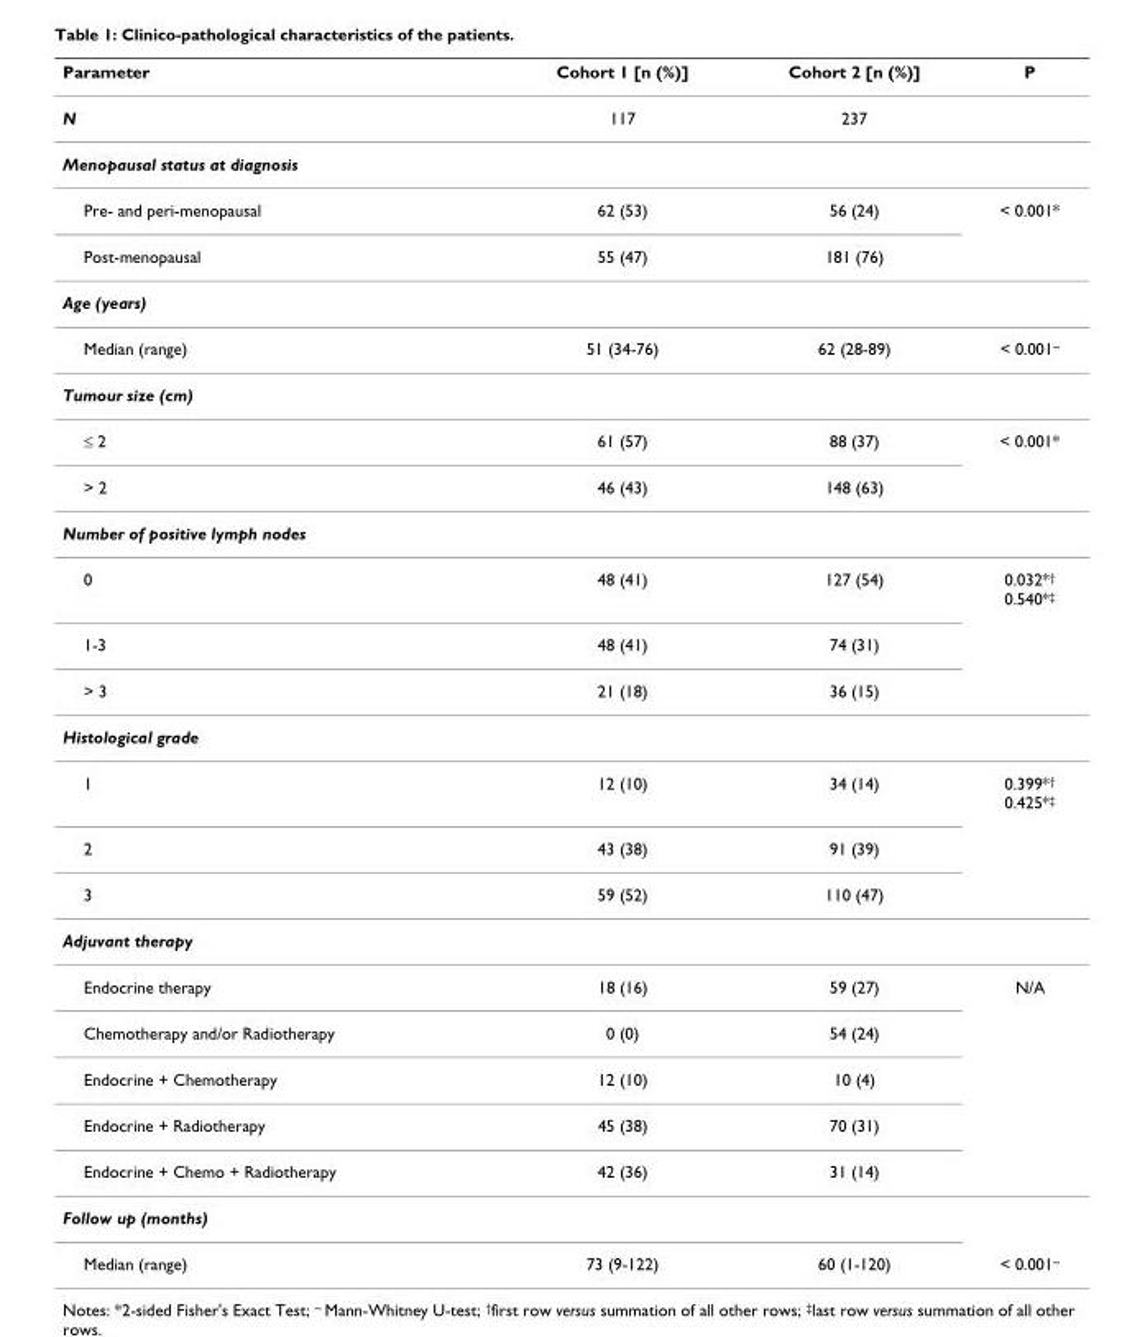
<table><thead><tr><td>Parameter</td><td>Cohort 1 [n (%)]</td><td>Cohort 2 [n (%)]</td><td>P</td></tr></thead><tbody><tr><td>N</td><td>117</td><td>237</td><td></td></tr><tr><td colspan="4">Menopausal status at diagnosis</td></tr><tr><td>Pre- and peri-menopausal</td><td>62 (53)</td><td>56 (24)</td><td>&lt; 0.001*</td></tr><tr><td>Post-menopausal</td><td>55 (47)</td><td>181 (76)</td><td></td></tr><tr><td colspan="4">Age (years)</td></tr><tr><td>Median (range)</td><td>51 (34-76)</td><td>62 (28-89)</td><td>&lt; 0.001<sup>~</sup></td></tr><tr><td colspan="4">Tumour size (cm)</td></tr><tr><td>≤ 2</td><td>61 (57)</td><td>88 (37)</td><td>&lt; 0.001*</td></tr><tr><td>&gt; 2</td><td>46 (43)</td><td>148 (63)</td><td></td></tr><tr><td colspan="4">Number of positive lymph nodes</td></tr><tr><td>0</td><td>48 (41)</td><td>127 (54)</td><td>0.032*<sup>†</sup> 0.540*<sup>‡</sup></td></tr><tr><td>1-3</td><td>48 (41)</td><td>74 (31)</td><td></td></tr><tr><td>&gt; 3</td><td>21 (18)</td><td>36 (15)</td><td></td></tr><tr><td colspan="4">Histological grade</td></tr><tr><td>1</td><td>12 (10)</td><td>34 (14)</td><td>0.399*<sup>†</sup> 0.425*<sup>‡</sup></td></tr><tr><td>2</td><td>43 (38)</td><td>91 (39)</td><td></td></tr><tr><td>3</td><td>59 (52)</td><td>110 (47)</td><td></td></tr><tr><td colspan="4">Adjuvant therapy</td></tr><tr><td>Endocrine therapy</td><td>18 (16)</td><td>59 (27)</td><td>N/A</td></tr><tr><td>Chemotherapy and/or Radiotherapy</td><td>0 (0)</td><td>54 (24)</td><td></td></tr><tr><td>Endocrine + Chemotherapy</td><td>12 (10)</td><td>10 (4)</td><td></td></tr><tr><td>Endocrine + Radiotherapy</td><td>45 (38)</td><td>70 (31)</td><td></td></tr><tr><td>Endocrine + Chemo + Radiotherapy</td><td>42 (36)</td><td>31 (14)</td><td></td></tr><tr><td colspan="4">Follow up (months)</td></tr><tr><td>Median (range)</td><td>73 (9-122)</td><td>60 (1-120)</td><td>&lt; 0.001<sup>~</sup></td></tr></tbody></table>